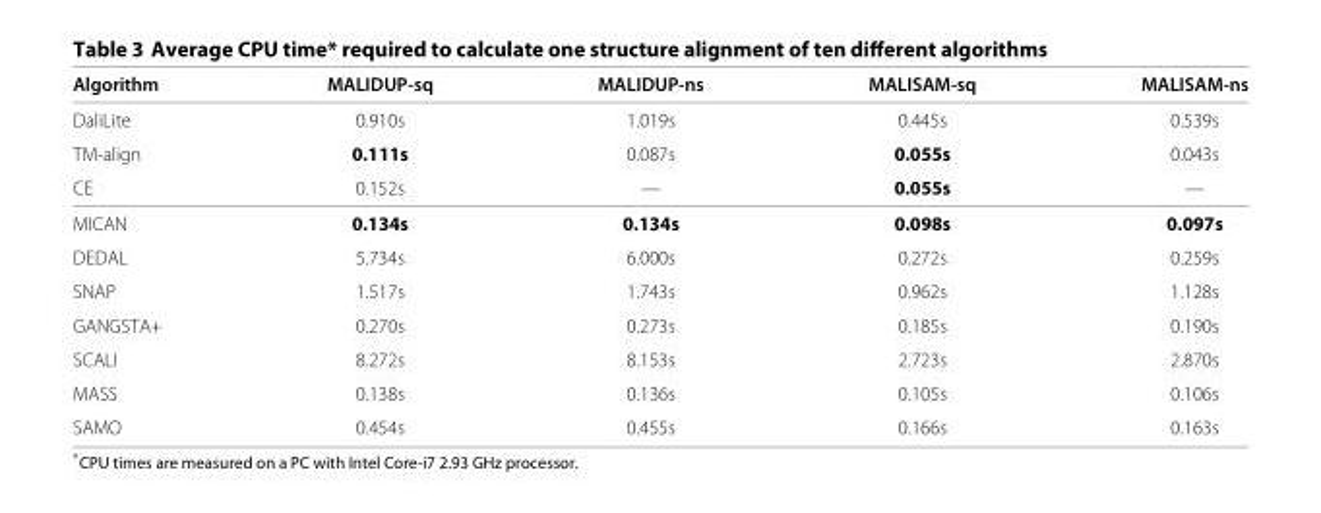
<table><thead><tr><td>Algorithm</td><td>MALIDUP-sq</td><td>MALIDUP-ns</td><td>MALISAM-sq</td><td>MALISAM-ns</td></tr></thead><tbody><tr><td>DaliLite</td><td>0.910s</td><td>1.019s</td><td>0.445s</td><td>0.539s</td></tr><tr><td>TM-align</td><td>0.111s</td><td>0.087s</td><td>0.055s</td><td>0.043s</td></tr><tr><td>CE</td><td>0.152s</td><td>—</td><td>0.055s</td><td>—</td></tr><tr><td>MICAN</td><td>0.134s</td><td>0.134s</td><td>0.098s</td><td>0.097s</td></tr><tr><td>DEDAL</td><td>5.734s</td><td>6.000s</td><td>0.272s</td><td>0.259s</td></tr><tr><td>SNAP</td><td>1.517s</td><td>1.743s</td><td>0.962s</td><td>1.128s</td></tr><tr><td>GANGSTA+</td><td>0.270s</td><td>0.273s</td><td>0.185s</td><td>0.190s</td></tr><tr><td>SCALI</td><td>8.272s</td><td>8.153s</td><td>2.723s</td><td>2.870s</td></tr><tr><td>MASS</td><td>0.138s</td><td>0.136s</td><td>0.105s</td><td>0.106s</td></tr><tr><td>SAMO</td><td>0.454s</td><td>0.455s</td><td>0.166s</td><td>0.163s</td></tr></tbody></table>